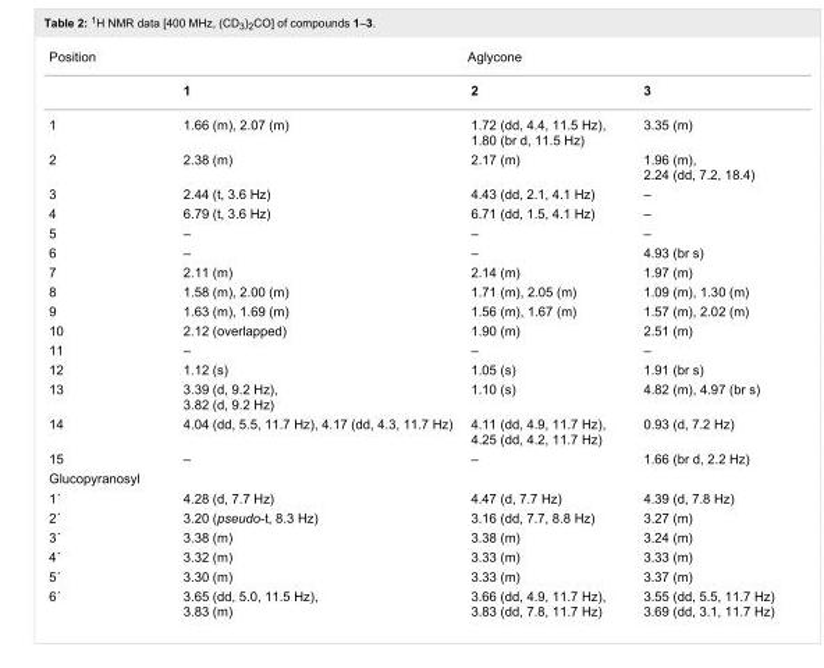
<table><tbody><tr><td rowspan="2">Position</td><td colspan="3">Aglycone</td></tr><tr><td>1</td><td>2</td><td>3</td></tr><tr><td>1</td><td>1.66 (m), 2.07 (m)</td><td>1.72 (dd, 4.4, 11.5 Hz), 1.80 (br d, 11.5 Hz)</td><td>3.35 (m)</td></tr><tr><td>2</td><td>2.38 (m)</td><td>2.17 (m)</td><td>1.96 (m), 2.24 (dd, 7.2, 18.4)</td></tr><tr><td>3</td><td>2.44 (t, 3.6 Hz)</td><td>4.43 (dd, 2.1, 4.1 Hz)</td><td>–</td></tr><tr><td>4</td><td>6.79 (t, 3.6 Hz)</td><td>6.71 (dd, 1.5, 4.1 Hz)</td><td>–</td></tr><tr><td>5</td><td>–</td><td>–</td><td>–</td></tr><tr><td>6</td><td>–</td><td>–</td><td>4.93 (br s)</td></tr><tr><td>7</td><td>2.11 (m)</td><td>2.14 (m)</td><td>1.97 (m)</td></tr><tr><td>8</td><td>1.58 (m), 2.00 (m)</td><td>1.71 (m), 2.05 (m)</td><td>1.09 (m), 1.30 (m)</td></tr><tr><td>9</td><td>1.63 (m), 1.69 (m)</td><td>1.56 (m), 1.67 (m)</td><td>1.57 (m), 2.02 (m)</td></tr><tr><td>10</td><td>2.12 (overlapped)</td><td>1.90 (m)</td><td>2.51 (m)</td></tr><tr><td>11</td><td>–</td><td>–</td><td>–</td></tr><tr><td>12</td><td>1.12 (s)</td><td>1.05 (s)</td><td>1.91 (br s)</td></tr><tr><td>13</td><td>3.39 (d, 9.2 Hz), 3.82 (d, 9.2 Hz)</td><td>1.10 (s)</td><td>4.82 (m), 4.97 (br s)</td></tr><tr><td>14</td><td>4.04 (dd, 5.5, 11.7 Hz), 4.17 (dd, 4.3, 11.7 Hz)</td><td>4.11 (dd, 4.9, 11.7 Hz), 4.25 (dd, 4.2, 11.7 Hz)</td><td>0.93 (d, 7.2 Hz)</td></tr><tr><td>15</td><td>–</td><td>–</td><td>1.66 (br d, 2.2 Hz)</td></tr><tr><td colspan="4">Glucopyranosyl</td></tr><tr><td>1´</td><td>4.28 (d, 7.7 Hz)</td><td>4.47 (d, 7.7 Hz)</td><td>4.39 (d, 7.8 Hz)</td></tr><tr><td>2´</td><td>3.20 (pseudo-t, 8.3 Hz)</td><td>3.16 (dd, 7.7, 8.8 Hz)</td><td>3.27 (m)</td></tr><tr><td>3´</td><td>3.38 (m)</td><td>3.38 (m)</td><td>3.24 (m)</td></tr><tr><td>4´</td><td>3.32 (m)</td><td>3.33 (m)</td><td>3.33 (m)</td></tr><tr><td>5´</td><td>3.30 (m)</td><td>3.33 (m)</td><td>3.37 (m)</td></tr><tr><td>6´</td><td>3.65 (dd, 5.0, 11.5 Hz), 3.83 (m)</td><td>3.66 (dd, 4.9, 11.7 Hz), 3.83 (dd, 7.8, 11.7 Hz)</td><td>3.55 (dd, 5.5, 11.7 Hz) 3.69 (dd, 3.1, 11.7 Hz)</td></tr></tbody></table>